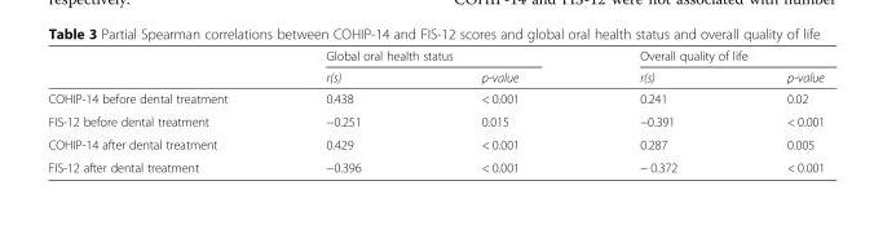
<table><thead><tr><td rowspan="2"></td><td colspan="2">Global oral health status</td><td colspan="2">Overall quality of life</td></tr><tr><td>r(s)</td><td>p-value</td><td>r(s)</td><td>p-value</td></tr></thead><tbody><tr><td>COHIP-14 before dental treatment</td><td>0.438</td><td>&lt; 0.001</td><td>0.241</td><td>0.02</td></tr><tr><td>FIS-12 before dental treatment</td><td>−0.251</td><td>0.015</td><td>−0.391</td><td>&lt; 0.001</td></tr><tr><td>COHIP-14 after dental treatment</td><td>0.429</td><td>&lt; 0.001</td><td>0.287</td><td>0.005</td></tr><tr><td>FIS-12 after dental treatment</td><td>−0.396</td><td>&lt; 0.001</td><td>− 0.372</td><td>&lt; 0.001</td></tr></tbody></table>